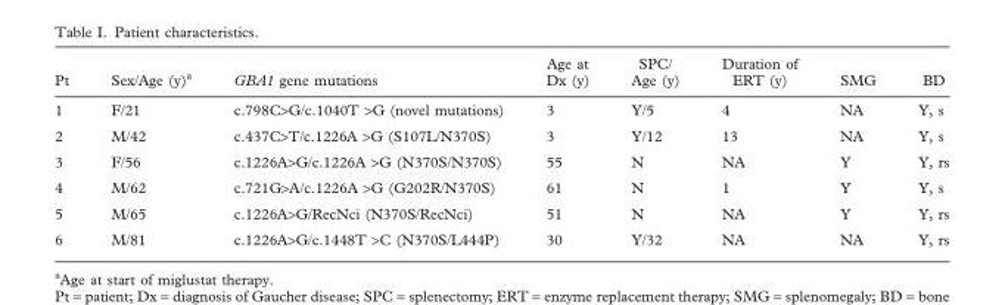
<table><thead><tr><td>Pt</td><td>Sex/Age (y)<sup>a</sup></td><td>GBA1 gene mutations</td><td>Age at Dx (y)</td><td>SPC/ Age (y)</td><td>Duration of ERT (y)</td><td>SMG</td><td>BD</td></tr></thead><tbody><tr><td>1</td><td>F/21</td><td>c.798C&gt;G/c.1040T &gt;G (novel mutations)</td><td>3</td><td>Y/5</td><td>4</td><td>NA</td><td>Y, s</td></tr><tr><td>2</td><td>M/42</td><td>c.437C&gt;T/c.1226A &gt;G (S107L/N370S)</td><td>3</td><td>Y/12</td><td>13</td><td>NA</td><td>Y, s</td></tr><tr><td>3</td><td>F/56</td><td>c.1226A&gt;G/c.1226A &gt;G (N370S/N370S)</td><td>55</td><td>N</td><td>NA</td><td>Y</td><td>Y, rs</td></tr><tr><td>4</td><td>M/62</td><td>c.721G&gt;A/c.1226A &gt;G (G202R/N370S)</td><td>61</td><td>N</td><td>1</td><td>Y</td><td>Y, s</td></tr><tr><td>5</td><td>M/65</td><td>c.1226A&gt;G/RecNci (N370S/RecNci)</td><td>51</td><td>N</td><td>NA</td><td>Y</td><td>Y, rs</td></tr><tr><td>6</td><td>M/81</td><td>c.1226A&gt;G/c.1448T &gt;C (N370S/L444P)</td><td>30</td><td>Y/32</td><td>NA</td><td>NA</td><td>Y, rs</td></tr></tbody></table>